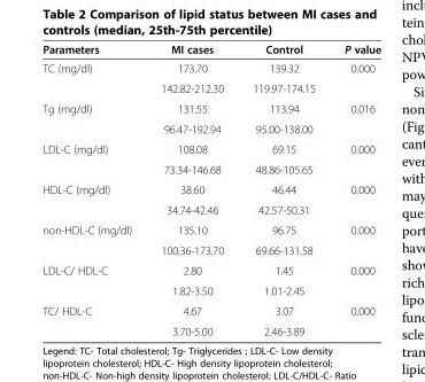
<table><thead><tr><td>Parameters</td><td>MI cases</td><td>Control</td><td>P value</td></tr></thead><tbody><tr><td rowspan="2">TC (mg/dl)</td><td>173.70</td><td>139.32</td><td>0.000</td></tr><tr><td>142.82-212.30</td><td>119.97-174.15</td><td></td></tr><tr><td rowspan="2">Tg (mg/dl)</td><td>131.55</td><td>113.94</td><td>0.016</td></tr><tr><td>96.47-192.94</td><td>95.00-138.00</td><td></td></tr><tr><td rowspan="2">LDL-C (mg/dl)</td><td>108.08</td><td>69.15</td><td>0.000</td></tr><tr><td>73.34-146.68</td><td>48.86-105.65</td><td></td></tr><tr><td rowspan="2">HDL-C (mg/dl)</td><td>38.60</td><td>46.44</td><td>0.000</td></tr><tr><td>34.74-42.46</td><td>42.57-50.31</td><td></td></tr><tr><td rowspan="2">non-HDL-C (mg/dl)</td><td>135.10</td><td>96.75</td><td>0.000</td></tr><tr><td>100.36-173.70</td><td>69.66-131.58</td><td></td></tr><tr><td rowspan="2">LDL-C/ HDL-C</td><td>2.80</td><td>1.45</td><td>0.000</td></tr><tr><td>1.82-3.50</td><td>1.01-2.45</td><td></td></tr><tr><td rowspan="2">TC/ HDL-C</td><td>4.67</td><td>3.07</td><td>0.000</td></tr><tr><td>3.70-5.00</td><td>2.46-3.89</td><td></td></tr></tbody></table>